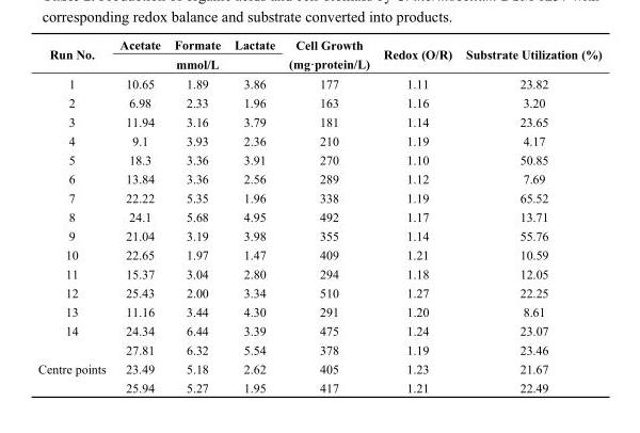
<table><thead><tr><td rowspan="2">Run No.</td><td>Acetate</td><td>Formate</td><td>Lactate</td><td rowspan="2">Cell Growth (mg·protein/L)</td><td rowspan="2">Redox (O/R)</td><td rowspan="2">Substrate Utilization (%)</td></tr><tr><td colspan="3">mmol/L</td></tr></thead><tbody><tr><td>1</td><td>10.65</td><td>1.89</td><td>3.86</td><td>177</td><td>1.11</td><td>23.82</td></tr><tr><td>2</td><td>6.98</td><td>2.33</td><td>1.96</td><td>163</td><td>1.16</td><td>3.20</td></tr><tr><td>3</td><td>11.94</td><td>3.16</td><td>3.79</td><td>181</td><td>1.14</td><td>23.65</td></tr><tr><td>4</td><td>9.1</td><td>3.93</td><td>2.36</td><td>210</td><td>1.19</td><td>4.17</td></tr><tr><td>5</td><td>18.3</td><td>3.36</td><td>3.91</td><td>270</td><td>1.10</td><td>50.85</td></tr><tr><td>6</td><td>13.84</td><td>3.36</td><td>2.56</td><td>289</td><td>1.12</td><td>7.69</td></tr><tr><td>7</td><td>22.22</td><td>5.35</td><td>1.96</td><td>338</td><td>1.19</td><td>65.52</td></tr><tr><td>8</td><td>24.1</td><td>5.68</td><td>4.95</td><td>492</td><td>1.17</td><td>13.71</td></tr><tr><td>9</td><td>21.04</td><td>3.19</td><td>3.98</td><td>355</td><td>1.14</td><td>55.76</td></tr><tr><td>10</td><td>22.65</td><td>1.97</td><td>1.47</td><td>409</td><td>1.21</td><td>10.59</td></tr><tr><td>11</td><td>15.37</td><td>3.04</td><td>2.80</td><td>294</td><td>1.18</td><td>12.05</td></tr><tr><td>12</td><td>25.43</td><td>2.00</td><td>3.34</td><td>510</td><td>1.27</td><td>22.25</td></tr><tr><td>13</td><td>11.16</td><td>3.44</td><td>4.30</td><td>291</td><td>1.20</td><td>8.61</td></tr><tr><td>14</td><td>24.34</td><td>6.44</td><td>3.39</td><td>475</td><td>1.24</td><td>23.07</td></tr><tr><td rowspan="3">Centre points</td><td>27.81</td><td>6.32</td><td>5.54</td><td>378</td><td>1.19</td><td>23.46</td></tr><tr><td>23.49</td><td>5.18</td><td>2.62</td><td>405</td><td>1.23</td><td>21.67</td></tr><tr><td>25.94</td><td>5.27</td><td>1.95</td><td>417</td><td>1.21</td><td>22.49</td></tr></tbody></table>